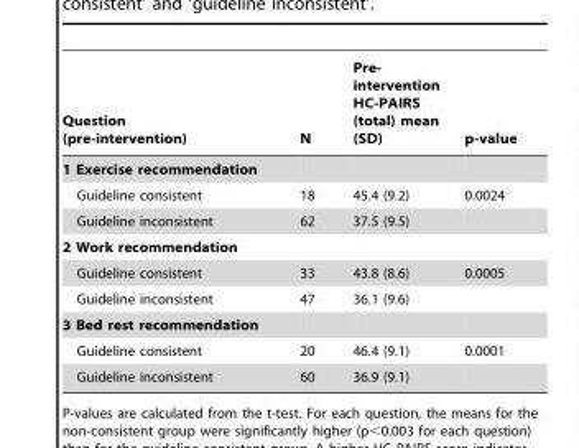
<table><thead><tr><td>Question (pre-intervention)</td><td>N</td><td>Pre- intervention HC-PAIRS (total) mean (SD)</td><td>p-value</td></tr></thead><tbody><tr><td colspan="4">1 Exercise recommendation</td></tr><tr><td>Guideline consistent</td><td>18</td><td>45.4 (9.2)</td><td>0.0024</td></tr><tr><td>Guideline inconsistent</td><td>62</td><td>37.5 (9.5)</td><td></td></tr><tr><td colspan="4">2 Work recommendation</td></tr><tr><td>Guideline consistent</td><td>33</td><td>43.8 (8.6)</td><td>0.0005</td></tr><tr><td>Guideline inconsistent</td><td>47</td><td>36.1 (9.6)</td><td></td></tr><tr><td colspan="4">3 Bed rest recommendation</td></tr><tr><td>Guideline consistent</td><td>20</td><td>46.4 (9.1)</td><td>0.0001</td></tr><tr><td>Guideline inconsistent</td><td>60</td><td>36.9 (9.1)</td><td></td></tr></tbody></table>